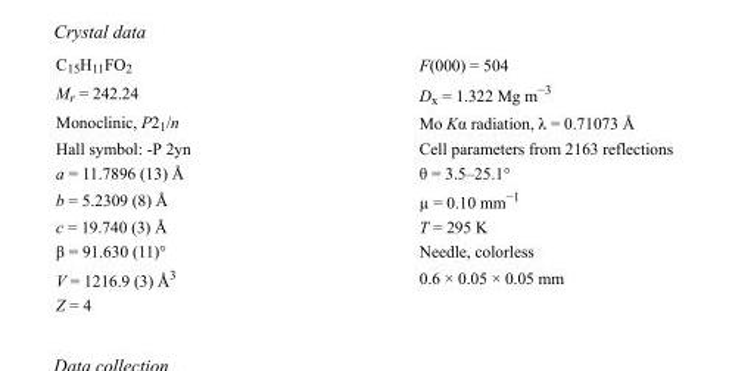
<table><tbody><tr><td>C<sub>15</sub>H<sub>11</sub>FO<sub>2</sub></td><td>F(000) = 504</td></tr><tr><td>M<sub>r</sub> = 242.24</td><td>D<sub>x</sub> = 1.322 Mg m<sup>−3</sup></td></tr><tr><td>Monoclinic, P2<sub>1</sub>/n</td><td>Mo Kα radiation, λ = 0.71073 Å</td></tr><tr><td>Hall symbol: -P 2yn</td><td>Cell parameters from 2163 reflections</td></tr><tr><td>a = 11.7896 (13) Å</td><td>θ = 3.5–25.1°</td></tr><tr><td>b = 5.2309 (8) Å</td><td>µ = 0.10 mm<sup>−1</sup></td></tr><tr><td>c = 19.740 (3) Å</td><td>T = 295 K</td></tr><tr><td>β = 91.630 (11)°</td><td>Needle, colorless</td></tr><tr><td>V = 1216.9 (3) Å<sup>3</sup></td><td>0.6 × 0.05 × 0.05 mm</td></tr><tr><td>Z = 4</td><td></td></tr></tbody></table>